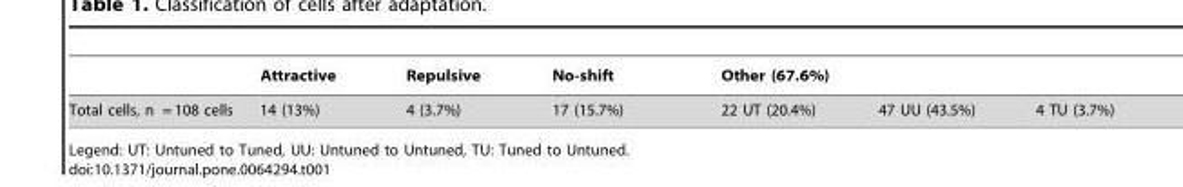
<table><thead><tr><td rowspan="2">Total cells, n = 108 cells</td><td rowspan="2">Attractive 14 (13%)</td><td rowspan="2">Repulsive 4 (3.7%)</td><td rowspan="2">No-shift 17 (15.7%)</td><td colspan="3">Other (67.6%)</td></tr><tr><td>22 UT (20.4%)</td><td>47 UU (43.5%)</td><td>4 TU (3.7%)</td></tr></thead><tbody></tbody></table>